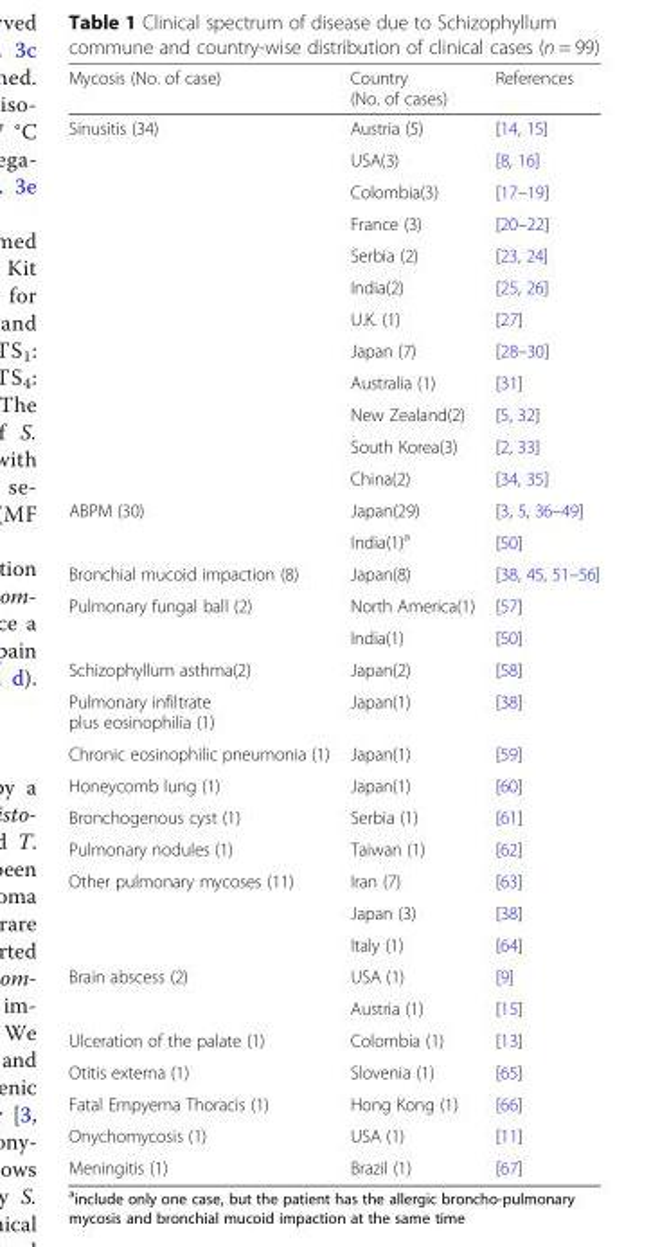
<table><thead><tr><td>Mycosis (No. of case)</td><td>Country (No. of cases)</td><td>References</td></tr></thead><tbody><tr><td rowspan="12">Sinusitis (34)</td><td>Austria (5)</td><td>[14, 15]</td></tr><tr><td>USA(3)</td><td>[8, 16]</td></tr><tr><td>Colombia(3)</td><td>[17–19]</td></tr><tr><td>France (3)</td><td>[20–22]</td></tr><tr><td>Serbia (2)</td><td>[23, 24]</td></tr><tr><td>India(2)</td><td>[25, 26]</td></tr><tr><td>U.K. (1)</td><td>[27]</td></tr><tr><td>Japan (7)</td><td>[28–30]</td></tr><tr><td>Australia (1)</td><td>[31]</td></tr><tr><td>New Zealand(2)</td><td>[5, 32]</td></tr><tr><td>South Korea(3)</td><td>[2, 33]</td></tr><tr><td>China(2)</td><td>[34, 35]</td></tr><tr><td rowspan="2">ABPM (30)</td><td>Japan(29)</td><td>[3, 5, 36–49]</td></tr><tr><td>India(1)<sup>a</sup></td><td>[50]</td></tr><tr><td>Bronchial mucoid impaction (8)</td><td>Japan(8)</td><td>[38, 45, 51–56]</td></tr><tr><td rowspan="2">Pulmonary fungal ball (2)</td><td>North America(1)</td><td>[57]</td></tr><tr><td>India(1)</td><td>[50]</td></tr><tr><td>Schizophyllum asthma(2)</td><td>Japan(2)</td><td>[58]</td></tr><tr><td>Pulmonary infiltrate plus eosinophilia (1)</td><td>Japan(1)</td><td>[38]</td></tr><tr><td>Chronic eosinophilic pneumonia (1)</td><td>Japan(1)</td><td>[59]</td></tr><tr><td>Honeycomb lung (1)</td><td>Japan(1)</td><td>[60]</td></tr><tr><td>Bronchogenous cyst (1)</td><td>Serbia (1)</td><td>[61]</td></tr><tr><td>Pulmonary nodules (1)</td><td>Taiwan (1)</td><td>[62]</td></tr><tr><td rowspan="3">Other pulmonary mycoses (11)</td><td>Iran (7)</td><td>[63]</td></tr><tr><td>Japan (3)</td><td>[38]</td></tr><tr><td>Italy (1)</td><td>[64]</td></tr><tr><td rowspan="2">Brain abscess (2)</td><td>USA (1)</td><td>[9]</td></tr><tr><td>Austria (1)</td><td>[15]</td></tr><tr><td>Ulceration of the palate (1)</td><td>Colombia (1)</td><td>[13]</td></tr><tr><td>Otitis externa (1)</td><td>Slovenia (1)</td><td>[65]</td></tr><tr><td>Fatal Empyema Thoracis (1)</td><td>Hong Kong (1)</td><td>[66]</td></tr><tr><td>Onychomycosis (1)</td><td>USA (1)</td><td>[11]</td></tr><tr><td>Meningitis (1)</td><td>Brazil (1)</td><td>[67]</td></tr></tbody></table>